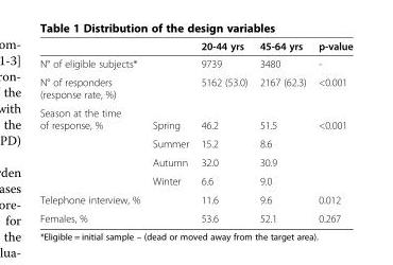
<table><thead><tr><td></td><td></td><td>20-44 yrs</td><td>45-64 yrs</td><td>p-value</td></tr></thead><tbody><tr><td>N° of eligible subjects*</td><td></td><td>9739</td><td>3480</td><td>-</td></tr><tr><td>N° of responders (response rate, %)</td><td></td><td>5162 (53.0)</td><td>2167 (62.3)</td><td>&lt;0.001</td></tr><tr><td rowspan="4">Season at the time of response, %</td><td>Spring</td><td>46.2</td><td>51.5</td><td>&lt;0.001</td></tr><tr><td>Summer</td><td>15.2</td><td>8.6</td><td></td></tr><tr><td>Autumn</td><td>32.0</td><td>30.9</td><td></td></tr><tr><td>Winter</td><td>6.6</td><td>9.0</td><td></td></tr><tr><td>Telephone interview, %</td><td></td><td>11.6</td><td>9.6</td><td>0.012</td></tr><tr><td>Females, %</td><td></td><td>53.6</td><td>52.1</td><td>0.267</td></tr></tbody></table>